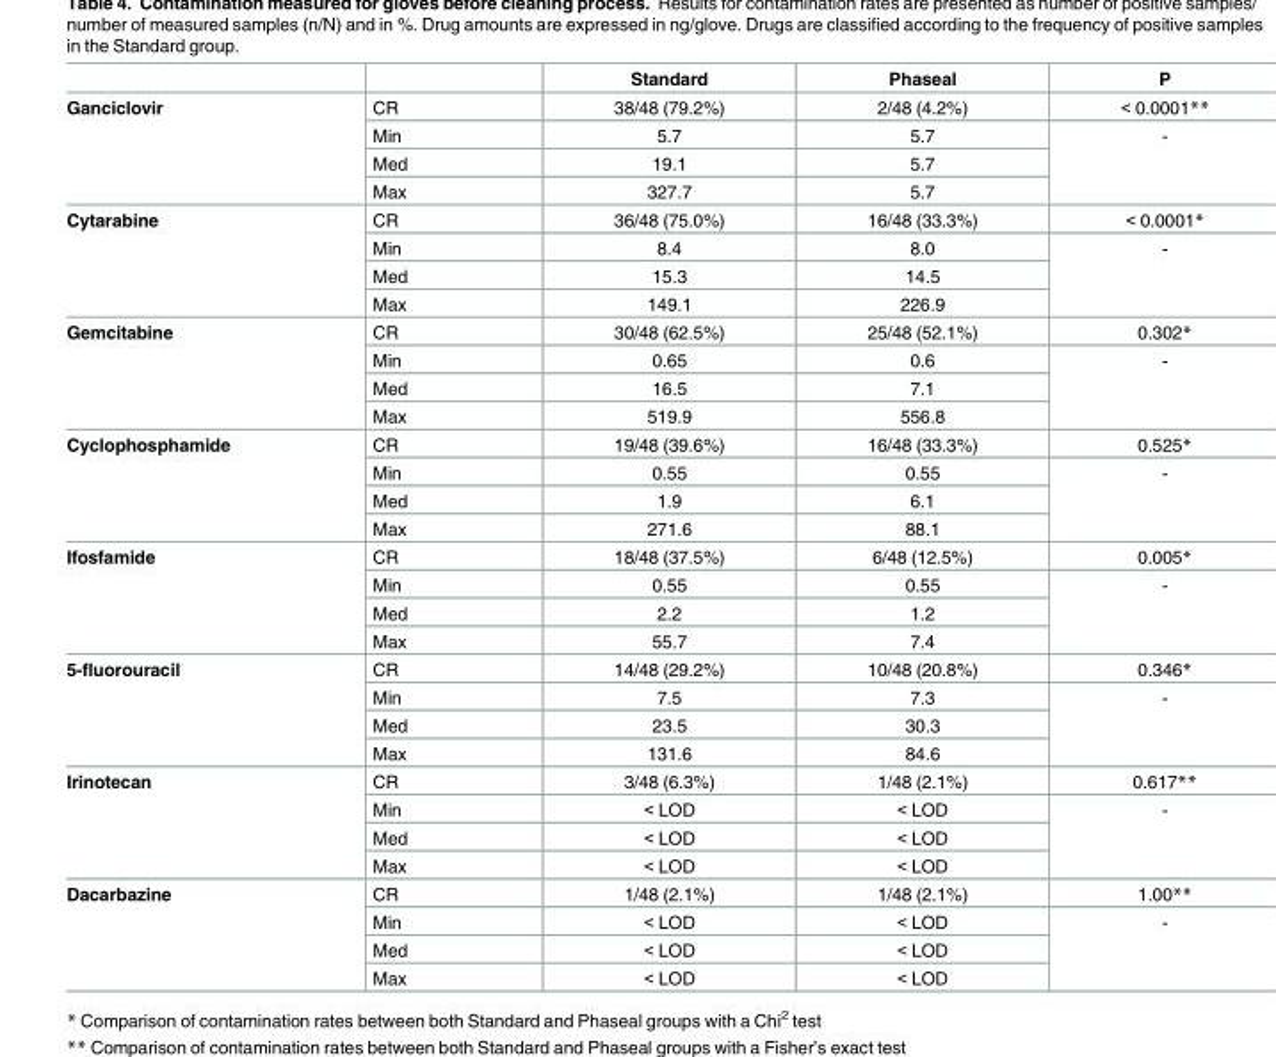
<table><thead><tr><td></td><td></td><td>Standard</td><td>Phaseal</td><td>P</td></tr></thead><tbody><tr><td rowspan="4">Ganciclovir</td><td>CR</td><td>38/48 (79.2%)</td><td>2/48 (4.2%)</td><td>&lt; 0.0001**</td></tr><tr><td>Min</td><td>5.7</td><td>5.7</td><td rowspan="3">-</td></tr><tr><td>Med</td><td>19.1</td><td>5.7</td></tr><tr><td>Max</td><td>327.7</td><td>5.7</td></tr><tr><td rowspan="4">Cytarabine</td><td>CR</td><td>36/48 (75.0%)</td><td>16/48 (33.3%)</td><td>&lt; 0.0001*</td></tr><tr><td>Min</td><td>8.4</td><td>8.0</td><td rowspan="3">-</td></tr><tr><td>Med</td><td>15.3</td><td>14.5</td></tr><tr><td>Max</td><td>149.1</td><td>226.9</td></tr><tr><td rowspan="4">Gemcitabine</td><td>CR</td><td>30/48 (62.5%)</td><td>25/48 (52.1%)</td><td>0.302*</td></tr><tr><td>Min</td><td>0.65</td><td>0.6</td><td rowspan="3">-</td></tr><tr><td>Med</td><td>16.5</td><td>7.1</td></tr><tr><td>Max</td><td>519.9</td><td>556.8</td></tr><tr><td rowspan="4">Cyclophosphamide</td><td>CR</td><td>19/48 (39.6%)</td><td>16/48 (33.3%)</td><td>0.525*</td></tr><tr><td>Min</td><td>0.55</td><td>0.55</td><td rowspan="3">-</td></tr><tr><td>Med</td><td>1.9</td><td>6.1</td></tr><tr><td>Max</td><td>271.6</td><td>88.1</td></tr><tr><td rowspan="4">Ifosfamide</td><td>CR</td><td>18/48 (37.5%)</td><td>6/48 (12.5%)</td><td>0.005*</td></tr><tr><td>Min</td><td>0.55</td><td>0.55</td><td rowspan="3">-</td></tr><tr><td>Med</td><td>2.2</td><td>1.2</td></tr><tr><td>Max</td><td>55.7</td><td>7.4</td></tr><tr><td rowspan="4">5-fluorouracil</td><td>CR</td><td>14/48 (29.2%)</td><td>10/48 (20.8%)</td><td>0.346*</td></tr><tr><td>Min</td><td>7.5</td><td>7.3</td><td rowspan="3">-</td></tr><tr><td>Med</td><td>23.5</td><td>30.3</td></tr><tr><td>Max</td><td>131.6</td><td>84.6</td></tr><tr><td rowspan="4">Irinotecan</td><td>CR</td><td>3/48 (6.3%)</td><td>1/48 (2.1%)</td><td>0.617**</td></tr><tr><td>Min</td><td>&lt; LOD</td><td>&lt; LOD</td><td rowspan="3">-</td></tr><tr><td>Med</td><td>&lt; LOD</td><td>&lt; LOD</td></tr><tr><td>Max</td><td>&lt; LOD</td><td>&lt; LOD</td></tr><tr><td rowspan="4">Dacarbazine</td><td>CR</td><td>1/48 (2.1%)</td><td>1/48 (2.1%)</td><td>1.00**</td></tr><tr><td>Min</td><td>&lt; LOD</td><td>&lt; LOD</td><td rowspan="3">-</td></tr><tr><td>Med</td><td>&lt; LOD</td><td>&lt; LOD</td></tr><tr><td>Max</td><td>&lt; LOD</td><td>&lt; LOD</td></tr></tbody></table>